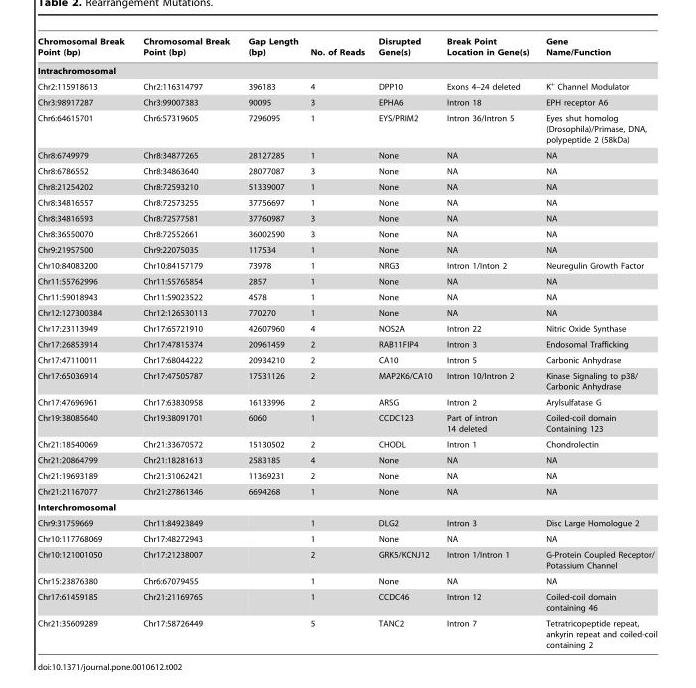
<table><thead><tr><td>Chromosomal Break Point (bp)</td><td>Chromosomal Break Point (bp)</td><td>Gap Length (bp)</td><td>No. of Reads</td><td>Disrupted Gene(s)</td><td>Break Point Location in Gene(s)</td><td>Gene Name/Function</td></tr></thead><tbody><tr><td colspan="7">Intrachromosomal</td></tr><tr><td>Chr2:115918613</td><td>Chr2:116314797</td><td>396183</td><td>4</td><td>DPP10</td><td>Exons 4–24 deleted</td><td>K<sup>+</sup> Channel Modulator</td></tr><tr><td>Chr3:98917287</td><td>Chr3:99007383</td><td>90095</td><td>3</td><td>EPHA6</td><td>Intron 18</td><td>EPH receptor A6</td></tr><tr><td>Chr6:64615701</td><td>Chr6:57319605</td><td>7296095</td><td>1</td><td>EYS/PRIM2</td><td>Intron 36/Intron 5</td><td>Eyes shut homolog (Drosophila)/Primase, DNA, polypeptide 2 (58kDa)</td></tr><tr><td>Chr8:6749979</td><td>Chr8:34877265</td><td>28127285</td><td>1</td><td>None</td><td>NA</td><td>NA</td></tr><tr><td>Chr8:6786552</td><td>Chr8:34863640</td><td>28077087</td><td>3</td><td>None</td><td>NA</td><td>NA</td></tr><tr><td>Chr8:21254202</td><td>Chr8:72593210</td><td>51339007</td><td>1</td><td>None</td><td>NA</td><td>NA</td></tr><tr><td>Chr8:34816557</td><td>Chr8:72573255</td><td>37756697</td><td>1</td><td>None</td><td>NA</td><td>NA</td></tr><tr><td>Chr8:34816593</td><td>Chr8:72577581</td><td>37760987</td><td>3</td><td>None</td><td>NA</td><td>NA</td></tr><tr><td>Chr8:36550070</td><td>Chr8:72552661</td><td>36002590</td><td>3</td><td>None</td><td>NA</td><td>NA</td></tr><tr><td>Chr9:21957500</td><td>Chr9:22075035</td><td>117534</td><td>1</td><td>None</td><td>NA</td><td>NA</td></tr><tr><td>Chr10:84083200</td><td>Chr10:84157179</td><td>73978</td><td>1</td><td>NRG3</td><td>Intron 1/Inton 2</td><td>Neuregulin Growth Factor</td></tr><tr><td>Chr11:55762996</td><td>Chr11:55765854</td><td>2857</td><td>1</td><td>None</td><td>NA</td><td>NA</td></tr><tr><td>Chr11:59018943</td><td>Chr11:59023522</td><td>4578</td><td>1</td><td>None</td><td>NA</td><td>NA</td></tr><tr><td>Chr12:127300384</td><td>Chr12:126530113</td><td>770270</td><td>1</td><td>None</td><td>NA</td><td>NA</td></tr><tr><td>Chr17:23113949</td><td>Chr17:65721910</td><td>42607960</td><td>4</td><td>NOS2A</td><td>Intron 22</td><td>Nitric Oxide Synthase</td></tr><tr><td>Chr17:26853914</td><td>Chr17:47815374</td><td>20961459</td><td>2</td><td>RAB11FIP4</td><td>Intron 3</td><td>Endosomal Trafficking</td></tr><tr><td>Chr17:47110011</td><td>Chr17:68044222</td><td>20934210</td><td>2</td><td>CA10</td><td>Intron 5</td><td>Carbonic Anhydrase</td></tr><tr><td>Chr17:65036914</td><td>Chr17:47505787</td><td>17531126</td><td>2</td><td>MAP2K6/CA10</td><td>Intron 10/Intron 2</td><td>Kinase Signaling to p38/ Carbonic Anhydrase</td></tr><tr><td>Chr17:47696961</td><td>Chr17:63830958</td><td>16133996</td><td>2</td><td>ARSG</td><td>Intron 2</td><td>Arylsulfatase G</td></tr><tr><td>Chr19:38085640</td><td>Chr19:38091701</td><td>6060</td><td>1</td><td>CCDC123</td><td>Part of intron 14 deleted</td><td>Coiled-coil domain Containing 123</td></tr><tr><td>Chr21:18540069</td><td>Chr21:33670572</td><td>15130502</td><td>2</td><td>CHODL</td><td>Intron 1</td><td>Chondrolectin</td></tr><tr><td>Chr21:20864799</td><td>Chr21:18281613</td><td>2583185</td><td>4</td><td>None</td><td>NA</td><td>NA</td></tr><tr><td>Chr21:19693189</td><td>Chr21:31062421</td><td>11369231</td><td>2</td><td>None</td><td>NA</td><td>NA</td></tr><tr><td>Chr21:21167077</td><td>Chr21:27861346</td><td>6694268</td><td>1</td><td>None</td><td>NA</td><td>NA</td></tr><tr><td colspan="7">Interchromosomal</td></tr><tr><td>Chr9:31759669</td><td>Chr11:84923849</td><td></td><td>1</td><td>DLG2</td><td>Intron 3</td><td>Disc Large Homologue 2</td></tr><tr><td>Chr10:117768069</td><td>Chr17:48272943</td><td></td><td>1</td><td>None</td><td>NA</td><td>NA</td></tr><tr><td>Chr10:121001050</td><td>Chr17:21238007</td><td></td><td>2</td><td>GRK5/KCNJ12</td><td>Intron 1/Intron 1</td><td>G-Protein Coupled Receptor/ Potassium Channel</td></tr><tr><td>Chr15:23876380</td><td>Chr6:67079455</td><td></td><td>1</td><td>None</td><td>NA</td><td>NA</td></tr><tr><td>Chr17:61459185</td><td>Chr21:21169765</td><td></td><td>1</td><td>CCDC46</td><td>Intron 12</td><td>Coiled-coil domain containing 46</td></tr><tr><td>Chr21:35609289</td><td>Chr17:58726449</td><td></td><td>5</td><td>TANC2</td><td>Intron 7</td><td>Tetratricopeptide repeat, ankyrin repeat and coiled-coil containing 2</td></tr></tbody></table>